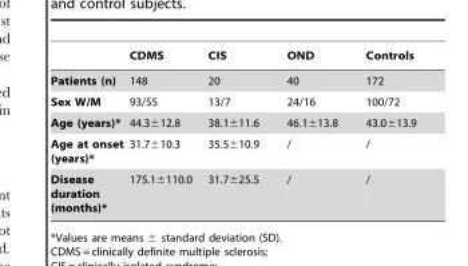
<table><thead><tr><td></td><td>CDMS</td><td>CIS</td><td>OND</td><td>Controls</td></tr></thead><tbody><tr><td>Patients (n)</td><td>148</td><td>20</td><td>40</td><td>172</td></tr><tr><td>Sex W/M</td><td>93/55</td><td>13/7</td><td>24/16</td><td>100/72</td></tr><tr><td>Age (years)*</td><td>44.3±12.8</td><td>38.1±11.6</td><td>46.1±13.8</td><td>43.0±13.9</td></tr><tr><td>Age at onset (years)*</td><td>31.7±10.3</td><td>35.5±10.9</td><td>/</td><td>/</td></tr><tr><td>Disease duration (months)*</td><td>175.1±110.0</td><td>31.7±25.5</td><td>/</td><td>/</td></tr></tbody></table>